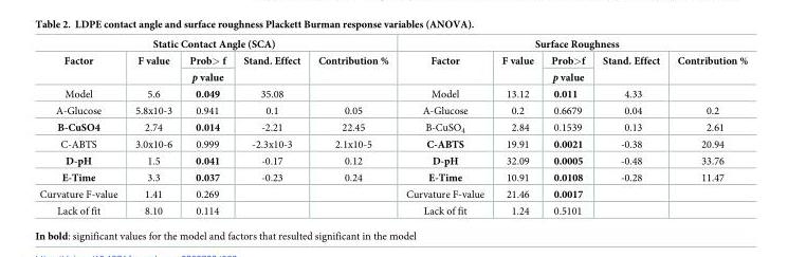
<table><thead><tr><td colspan="5">Static Contact Angle (SCA)</td><td colspan="5">Surface Roughness</td></tr><tr><td rowspan="2">Factor</td><td rowspan="2">F value</td><td rowspan="2">Prob&gt; f p value</td><td rowspan="2">Stand. Effect</td><td rowspan="2">Contribution %</td><td rowspan="2">Factor</td><td rowspan="2">F value</td><td rowspan="2">Prob&gt;f p value</td><td rowspan="2">Stand. Effect</td><td rowspan="2">Contribution %</td></tr><tr></tr></thead><tbody><tr><td>Model</td><td>5.6</td><td>0.049</td><td>35.08</td><td></td><td>Model</td><td>13.12</td><td>0.011</td><td>4.33</td><td></td></tr><tr><td>A-Glucose</td><td>5.8x10-3</td><td>0.941</td><td>0.1</td><td>0.05</td><td>A-Glucose</td><td>0.2</td><td>0.6679</td><td>0.04</td><td>0.2</td></tr><tr><td>B-CuSO4</td><td>2.74</td><td>0.014</td><td>-2.21</td><td>22.45</td><td>B-CuSO<sub>4</sub></td><td>2.84</td><td>0.1539</td><td>0.13</td><td>2.61</td></tr><tr><td>C-ABTS</td><td>3.0x10-6</td><td>0.999</td><td>-2.3x10-3</td><td>2.1x10-5</td><td>C-ABTS</td><td>19.91</td><td>0.0021</td><td>-0.38</td><td>20.94</td></tr><tr><td>D-pH</td><td>1.5</td><td>0.041</td><td>-0.17</td><td>0.12</td><td>D-pH</td><td>32.09</td><td>0.0005</td><td>-0.48</td><td>33.76</td></tr><tr><td>E-Time</td><td>3.3</td><td>0.037</td><td>-0.23</td><td>0.24</td><td>E-Time</td><td>10.91</td><td>0.0108</td><td>-0.28</td><td>11.47</td></tr><tr><td>Curvature F-value</td><td>1.41</td><td>0.269</td><td></td><td></td><td>Curvature F-value</td><td>21.46</td><td>0.0017</td><td></td><td></td></tr><tr><td>Lack of fit</td><td>8.10</td><td>0.114</td><td></td><td></td><td>Lack of fit</td><td>1.24</td><td>0.5101</td><td></td><td></td></tr></tbody></table>